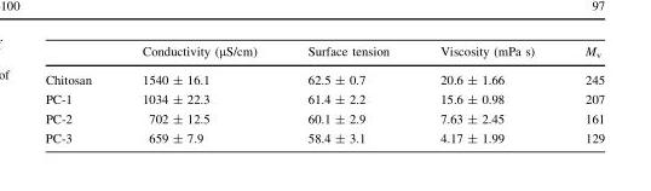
<table><thead><tr><td></td><td>Conductivity (µS/cm)</td><td>Surface tension</td><td>Viscosity (mPa s)</td><td>M<sub>v</sub></td></tr></thead><tbody><tr><td>Chitosan</td><td>1540 ± 16.1</td><td>62.5 ± 0.7</td><td>20.6 ± 1.66</td><td>245</td></tr><tr><td>PC-1</td><td>1034 ± 22.3</td><td>61.4 ± 2.2</td><td>15.6 ± 0.98</td><td>207</td></tr><tr><td>PC-2</td><td>702 ± 12.5</td><td>60.1 ± 2.9</td><td>7.63 ± 2.45</td><td>161</td></tr><tr><td>PC-3</td><td>659 ± 7.9</td><td>58.4 ± 3.1</td><td>4.17 ± 1.99</td><td>129</td></tr></tbody></table>